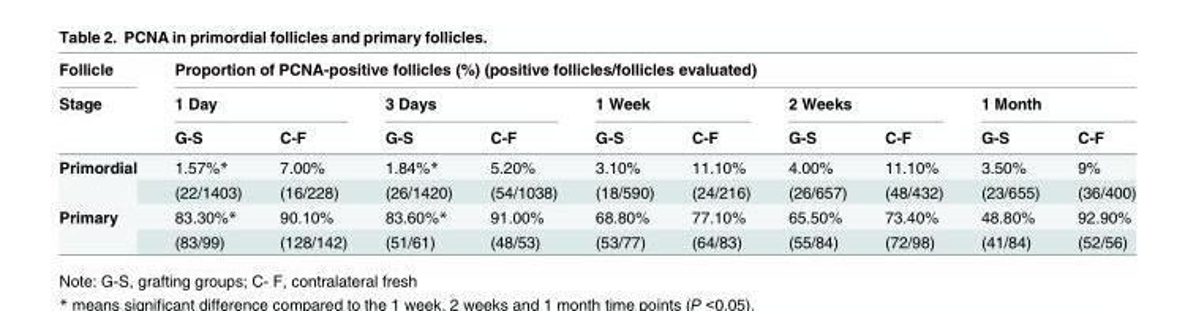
<table><thead><tr><td rowspan="3">Follicle Stage</td><td colspan="10">Proportion of PCNA-positive follicles (%) (positive follicles/follicles evaluated)</td></tr><tr><td colspan="2">1 Day</td><td colspan="2">3 Days</td><td colspan="2">1 Week</td><td colspan="2">2 Weeks</td><td colspan="2">1 Month</td></tr><tr><td>G-S</td><td>C-F</td><td>G-S</td><td>C-F</td><td>G-S</td><td>C-F</td><td>G-S</td><td>C-F</td><td>G-S</td><td>C-F</td></tr></thead><tbody><tr><td rowspan="2">Primordial</td><td>1.57%*</td><td>7.00%</td><td>1.84%*</td><td>5.20%</td><td>3.10%</td><td>11.10%</td><td>4.00%</td><td>11.10%</td><td>3.50%</td><td>9%</td></tr><tr><td>(22/1403)</td><td>(16/228)</td><td>(26/1420)</td><td>(54/1038)</td><td>(18/590)</td><td>(24/216)</td><td>(26/657)</td><td>(48/432)</td><td>(23/655)</td><td>(36/400)</td></tr><tr><td rowspan="2">Primary</td><td>83.30%*</td><td>90.10%</td><td>83.60%*</td><td>91.00%</td><td>68.80%</td><td>77.10%</td><td>65.50%</td><td>73.40%</td><td>48.80%</td><td>92.90%</td></tr><tr><td>(83/99)</td><td>(128/142)</td><td>(51/61)</td><td>(48/53)</td><td>(53/77)</td><td>(64/83)</td><td>(55/84)</td><td>(72/98)</td><td>(41/84)</td><td>(52/56)</td></tr></tbody></table>